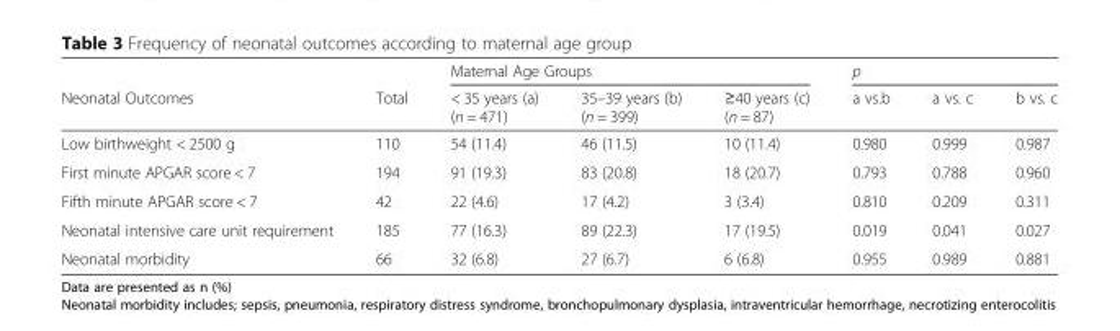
<table><thead><tr><td rowspan="2">Neonatal Outcomes</td><td rowspan="2">Total</td><td colspan="3">Maternal Age Groups</td><td colspan="3">p</td></tr><tr><td>&lt; 35 years (a) (n = 471)</td><td>35–39 years (b) (n = 399)</td><td>≥40 years (c) (n = 87)</td><td>a vs.b</td><td>a vs. c</td><td>b vs. c</td></tr></thead><tbody><tr><td>Low birthweight &lt; 2500 g</td><td>110</td><td>54 (11.4)</td><td>46 (11.5)</td><td>10 (11.4)</td><td>0.980</td><td>0.999</td><td>0.987</td></tr><tr><td>First minute APGAR score &lt; 7</td><td>194</td><td>91 (19.3)</td><td>83 (20.8)</td><td>18 (20.7)</td><td>0.793</td><td>0.788</td><td>0.960</td></tr><tr><td>Fifth minute APGAR score &lt; 7</td><td>42</td><td>22 (4.6)</td><td>17 (4.2)</td><td>3 (3.4)</td><td>0.810</td><td>0.209</td><td>0.311</td></tr><tr><td>Neonatal intensive care unit requirement</td><td>185</td><td>77 (16.3)</td><td>89 (22.3)</td><td>17 (19.5)</td><td>0.019</td><td>0.041</td><td>0.027</td></tr><tr><td>Neonatal morbidity</td><td>66</td><td>32 (6.8)</td><td>27 (6.7)</td><td>6 (6.8)</td><td>0.955</td><td>0.989</td><td>0.881</td></tr></tbody></table>